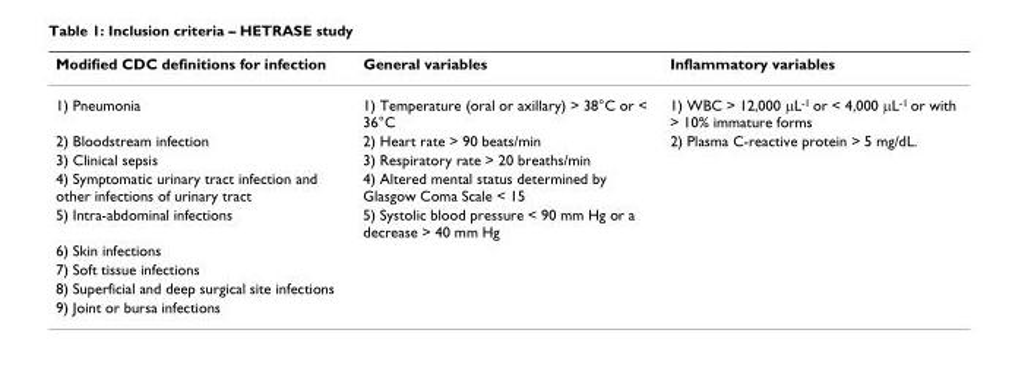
<table><thead><tr><td>Modified CDC definitions for infection</td><td>General variables</td><td>Inflammatory variables</td></tr></thead><tbody><tr><td>1) Pneumonia</td><td>1) Temperature (oral or axillary) &gt; 38°C or &lt; 36°C</td><td>1) WBC &gt; 12,000 µL<sup>-1</sup> or &lt; 4,000 µL<sup>-1</sup> or with &gt; 10% immature forms</td></tr><tr><td>2) Bloodstream infection</td><td>2) Heart rate &gt; 90 beats/min</td><td>2) Plasma C-reactive protein &gt; 5 mg/dL.</td></tr><tr><td>3) Clinical sepsis</td><td>3) Respiratory rate &gt; 20 breaths/min</td><td></td></tr><tr><td>4) Symptomatic urinary tract infection and other infections of urinary tract</td><td>4) Altered mental status determined by Glasgow Coma Scale &lt; 15</td><td></td></tr><tr><td>5) Intra-abdominal infections</td><td>5) Systolic blood pressure &lt; 90 mm Hg or a decrease &gt; 40 mm Hg</td><td></td></tr><tr><td colspan="3">6) Skin infections</td></tr><tr><td colspan="3">7) Soft tissue infections</td></tr><tr><td colspan="3">8) Superficial and deep surgical site infections</td></tr><tr><td>9) Joint or bursa infections</td><td></td><td></td></tr></tbody></table>